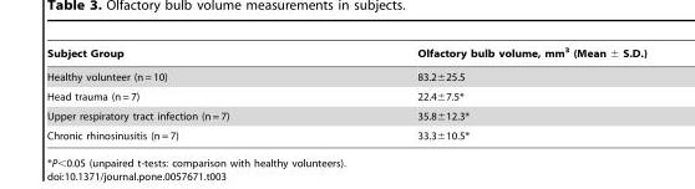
<table><thead><tr><td>Subject Group</td><td>Olfactory bulb volume, mm<sup>3</sup> (Mean ± S.D.)</td></tr></thead><tbody><tr><td>Healthy volunteer (n = 10)</td><td>83.2±25.5</td></tr><tr><td>Head trauma (n = 7)</td><td>22.4±7.5*</td></tr><tr><td>Upper respiratory tract infection (n = 7)</td><td>35.8±12.3*</td></tr><tr><td>Chronic rhinosinusitis (n = 7)</td><td>33.3±10.5*</td></tr></tbody></table>